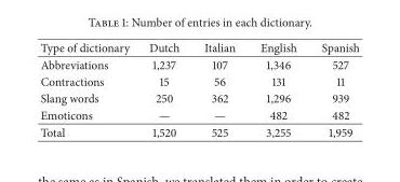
<table><thead><tr><td>Type of dictionary</td><td>Dutch</td><td>Italian</td><td>English</td><td>Spanish</td></tr></thead><tbody><tr><td>Abbreviations</td><td>1,237</td><td>107</td><td>1,346</td><td>527</td></tr><tr><td>Contractions</td><td>15</td><td>56</td><td>131</td><td>11</td></tr><tr><td>Slang words</td><td>250</td><td>362</td><td>1,296</td><td>939</td></tr><tr><td>Emoticons</td><td>—</td><td>—</td><td>482</td><td>482</td></tr><tr><td>Total</td><td>1,520</td><td>525</td><td>3,255</td><td>1,959</td></tr></tbody></table>